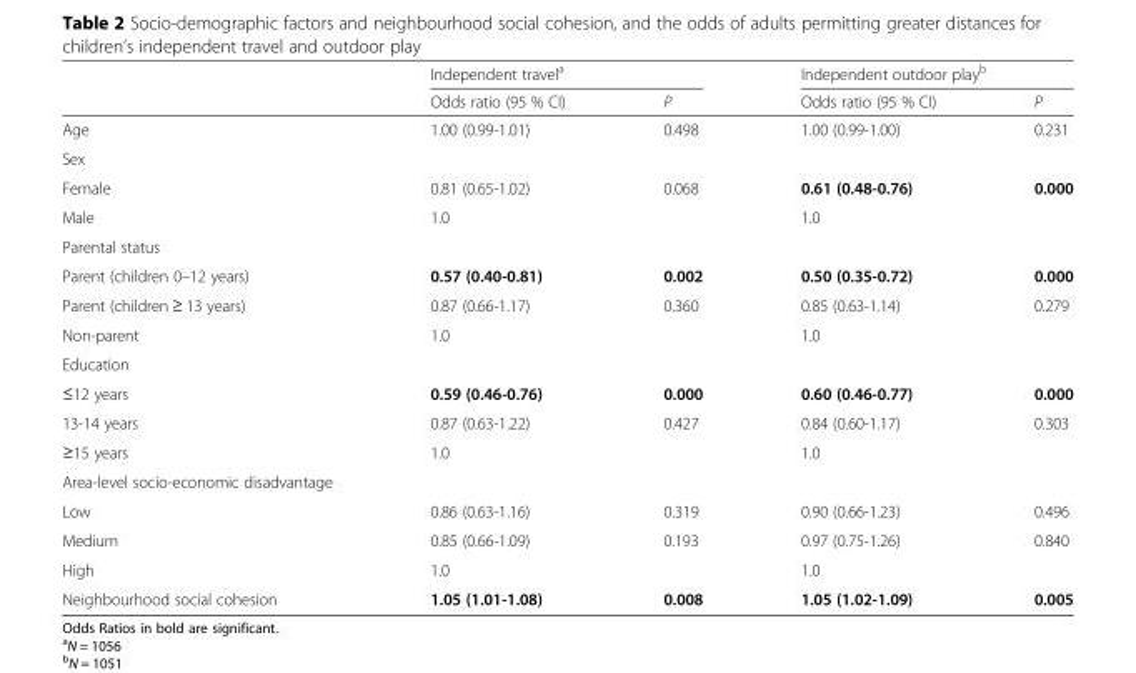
<table><thead><tr><td rowspan="2"></td><td colspan="2">Independent travel<sup>a</sup></td><td colspan="2">Independent outdoor play<sup>b</sup></td></tr><tr><td>Odds ratio (95 % CI)</td><td>P</td><td>Odds ratio (95 % CI)</td><td>P</td></tr></thead><tbody><tr><td>Age</td><td>1.00 (0.99-1.01)</td><td>0.498</td><td>1.00 (0.99-1.00)</td><td>0.231</td></tr><tr><td colspan="5">Sex</td></tr><tr><td>Female</td><td>0.81 (0.65-1.02)</td><td>0.068</td><td>0.61 (0.48-0.76)</td><td>0.000</td></tr><tr><td>Male</td><td>1.0</td><td></td><td>1.0</td><td></td></tr><tr><td colspan="5">Parental status</td></tr><tr><td>Parent (children 0–12 years)</td><td>0.57 (0.40-0.81)</td><td>0.002</td><td>0.50 (0.35-0.72)</td><td>0.000</td></tr><tr><td>Parent (children ≥ 13 years)</td><td>0.87 (0.66-1.17)</td><td>0.360</td><td>0.85 (0.63-1.14)</td><td>0.279</td></tr><tr><td>Non-parent</td><td>1.0</td><td></td><td>1.0</td><td></td></tr><tr><td colspan="5">Education</td></tr><tr><td>≤12 years</td><td>0.59 (0.46-0.76)</td><td>0.000</td><td>0.60 (0.46-0.77)</td><td>0.000</td></tr><tr><td>13-14 years</td><td>0.87 (0.63-1.22)</td><td>0.427</td><td>0.84 (0.60-1.17)</td><td>0.303</td></tr><tr><td>≥15 years</td><td>1.0</td><td></td><td>1.0</td><td></td></tr><tr><td colspan="5">Area-level socio-economic disadvantage</td></tr><tr><td>Low</td><td>0.86 (0.63-1.16)</td><td>0.319</td><td>0.90 (0.66-1.23)</td><td>0.496</td></tr><tr><td>Medium</td><td>0.85 (0.66-1.09)</td><td>0.193</td><td>0.97 (0.75-1.26)</td><td>0.840</td></tr><tr><td>High</td><td>1.0</td><td></td><td>1.0</td><td></td></tr><tr><td>Neighbourhood social cohesion</td><td>1.05 (1.01-1.08)</td><td>0.008</td><td>1.05 (1.02-1.09)</td><td>0.005</td></tr></tbody></table>